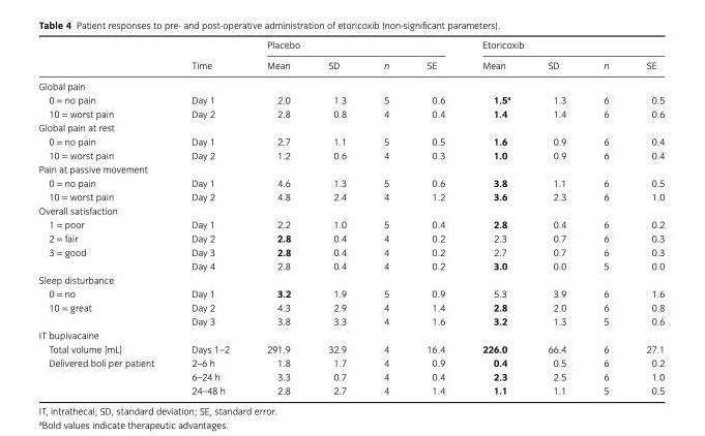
<table><thead><tr><td rowspan="2"></td><td rowspan="2">Time</td><td colspan="4">Placebo</td><td colspan="4">Etoricoxib</td></tr><tr><td>Mean</td><td>SD</td><td>n</td><td>SE</td><td>Mean</td><td>SD</td><td>n</td><td>SE</td></tr></thead><tbody><tr><td colspan="10">Global pain</td></tr><tr><td>0 = no pain</td><td>Day 1</td><td>2.0</td><td>1.3</td><td>5</td><td>0.6</td><td>1.5<sup>a</sup></td><td>1.3</td><td>6</td><td>0.5</td></tr><tr><td>10 = worst pain</td><td>Day 2</td><td>2.8</td><td>0.8</td><td>4</td><td>0.4</td><td>1.4</td><td>1.4</td><td>6</td><td>0.6</td></tr><tr><td colspan="10">Global pain at rest</td></tr><tr><td>0 = no pain</td><td>Day 1</td><td>2.7</td><td>1.1</td><td>5</td><td>0.5</td><td>1.6</td><td>0.9</td><td>6</td><td>0.4</td></tr><tr><td>10 = worst pain</td><td>Day 2</td><td>1.2</td><td>0.6</td><td>4</td><td>0.3</td><td>1.0</td><td>0.9</td><td>6</td><td>0.4</td></tr><tr><td colspan="10">Pain at passive movement</td></tr><tr><td>0 = no pain</td><td>Day 1</td><td>4.6</td><td>1.3</td><td>5</td><td>0.6</td><td>3.8</td><td>1.1</td><td>6</td><td>0.5</td></tr><tr><td>10 = worst pain</td><td>Day 2</td><td>4.8</td><td>2.4</td><td>4</td><td>1.2</td><td>3.6</td><td>2.3</td><td>6</td><td>1.0</td></tr><tr><td colspan="10">Overall satisfaction</td></tr><tr><td>1 = poor</td><td>Day 1</td><td>2.2</td><td>1.0</td><td>5</td><td>0.4</td><td>2.8</td><td>0.4</td><td>6</td><td>0.2</td></tr><tr><td>2 = fair</td><td>Day 2</td><td>2.8</td><td>0.4</td><td>4</td><td>0.2</td><td>2.3</td><td>0.7</td><td>6</td><td>0.3</td></tr><tr><td rowspan="2">3 = good</td><td>Day 3</td><td>2.8</td><td>0.4</td><td>4</td><td>0.2</td><td>2.7</td><td>0.7</td><td>6</td><td>0.3</td></tr><tr><td>Day 4</td><td>2.8</td><td>0.4</td><td>4</td><td>0.2</td><td>3.0</td><td>0.0</td><td>5</td><td>0.0</td></tr><tr><td colspan="10">Sleep disturbance</td></tr><tr><td>0 = no</td><td>Day 1</td><td>3.2</td><td>1.9</td><td>5</td><td>0.9</td><td>5.3</td><td>3.9</td><td>6</td><td>1.6</td></tr><tr><td rowspan="2">10 = great</td><td>Day 2</td><td>4.3</td><td>2.9</td><td>4</td><td>1.4</td><td>2.8</td><td>2.0</td><td>6</td><td>0.8</td></tr><tr><td>Day 3</td><td>3.8</td><td>3.3</td><td>4</td><td>1.6</td><td>3.2</td><td>1.3</td><td>5</td><td>0.6</td></tr><tr><td colspan="10">IT bupivacaine</td></tr><tr><td>Total volume [mL]</td><td>Days 1–2</td><td>291.9</td><td>32.9</td><td>4</td><td>16.4</td><td>226.0</td><td>66.4</td><td>6</td><td>27.1</td></tr><tr><td rowspan="3">Delivered boli per patient</td><td>2–6 h</td><td>1.8</td><td>1.7</td><td>4</td><td>0.9</td><td>0.4</td><td>0.5</td><td>6</td><td>0.2</td></tr><tr><td>6–24 h</td><td>3.3</td><td>0.7</td><td>4</td><td>0.4</td><td>2.3</td><td>2.5</td><td>6</td><td>1.0</td></tr><tr><td>24–48 h</td><td>2.8</td><td>2.7</td><td>4</td><td>1.4</td><td>1.1</td><td>1.1</td><td>5</td><td>0.5</td></tr></tbody></table>